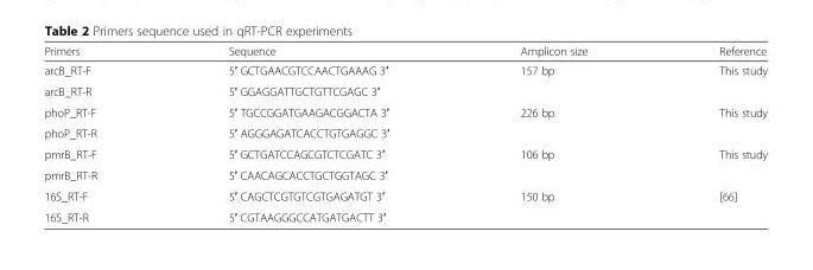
<table><thead><tr><td>Primers</td><td>Sequence</td><td>Amplicon size</td><td>Reference</td></tr></thead><tbody><tr><td>arcB_RT-F</td><td>5′ GCTGAACGTCCAACTGAAAG 3′</td><td rowspan="2">157 bp</td><td rowspan="2">This study</td></tr><tr><td>arcB_RT-R</td><td>5′ GGAGGATTGCTGTTCGAGC 3′</td></tr><tr><td>phoP_RT-F</td><td>5′ TGCCGGATGAAGACGGACTA 3′</td><td rowspan="2">226 bp</td><td rowspan="2">This study</td></tr><tr><td>phoP_RT-R</td><td>5′ AGGGAGATCACCTGTGAGGC 3′</td></tr><tr><td>pmrB_RT-F</td><td>5′ GCTGATCCAGCGTCTCGATC 3′</td><td rowspan="2">106 bp</td><td rowspan="2">This study</td></tr><tr><td>pmrB_RT-R</td><td>5′ CAACAGCACCTGCTGGTAGC 3′</td></tr><tr><td>16S_RT-F</td><td>5′ CAGCTCGTGTCGTGAGATGT 3′</td><td rowspan="2">150 bp</td><td rowspan="2">[66]</td></tr><tr><td>16S_RT-R</td><td>5′ CGTAAGGGCCATGATGACTT 3′</td></tr></tbody></table>